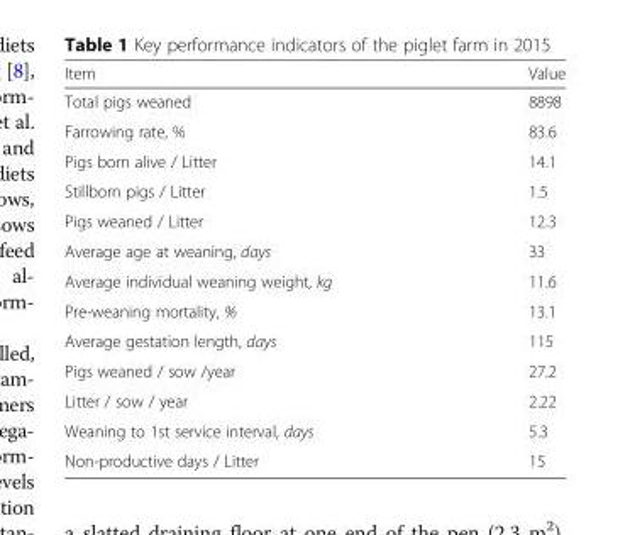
<table><thead><tr><td>Item</td><td>Value</td></tr></thead><tbody><tr><td>Total pigs weaned</td><td>8898</td></tr><tr><td>Farrowing rate, %</td><td>83.6</td></tr><tr><td>Pigs born alive / Litter</td><td>14.1</td></tr><tr><td>Stillborn pigs / Litter</td><td>1.5</td></tr><tr><td>Pigs weaned / Litter</td><td>12.3</td></tr><tr><td>Average age at weaning, days</td><td>33</td></tr><tr><td>Average individual weaning weight, kg</td><td>11.6</td></tr><tr><td>Pre-weaning mortality, %</td><td>13.1</td></tr><tr><td>Average gestation length, days</td><td>115</td></tr><tr><td>Pigs weaned / sow /year</td><td>27.2</td></tr><tr><td>Litter / sow / year</td><td>2.22</td></tr><tr><td>Weaning to 1st service interval, days</td><td>5.3</td></tr><tr><td>Non-productive days / Litter</td><td>15</td></tr></tbody></table>